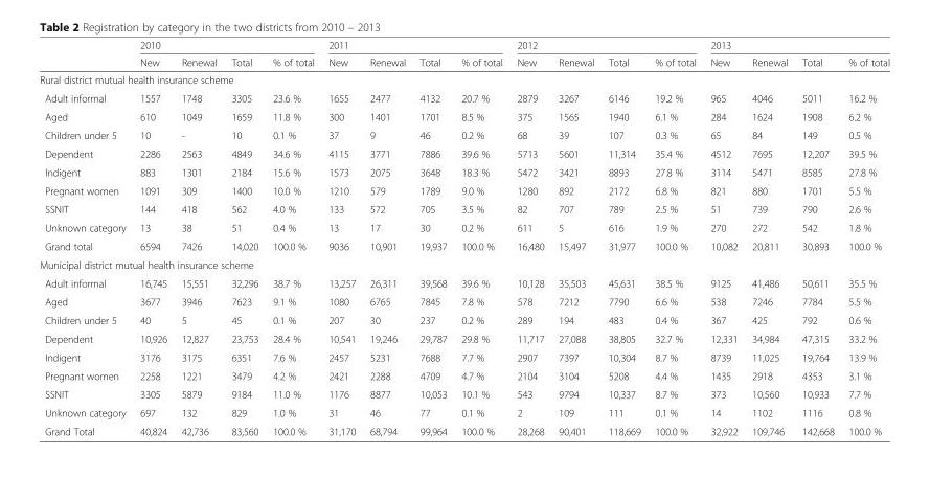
<table><thead><tr><td rowspan="2"></td><td colspan="4">2010</td><td colspan="4">2011</td><td colspan="4">2012</td><td colspan="4">2013</td></tr><tr><td>New</td><td>Renewal</td><td>Total</td><td>% of total</td><td>New</td><td>Renewal</td><td>Total</td><td>% of total</td><td>New</td><td>Renewal</td><td>Total</td><td>% of total</td><td>New</td><td>Renewal</td><td>Total</td><td>% of total</td></tr></thead><tbody><tr><td colspan="17">Rural district mutual health insurance scheme</td></tr><tr><td>Adult informal</td><td>1557</td><td>1748</td><td>3305</td><td>23.6 %</td><td>1655</td><td>2477</td><td>4132</td><td>20.7 %</td><td>2879</td><td>3267</td><td>6146</td><td>19.2 %</td><td>965</td><td>4046</td><td>5011</td><td>16.2 %</td></tr><tr><td>Aged</td><td>610</td><td>1049</td><td>1659</td><td>11.8 %</td><td>300</td><td>1401</td><td>1701</td><td>8.5 %</td><td>375</td><td>1565</td><td>1940</td><td>6.1 %</td><td>284</td><td>1624</td><td>1908</td><td>6.2 %</td></tr><tr><td>Children under 5</td><td>10</td><td>-</td><td>10</td><td>0.1 %</td><td>37</td><td>9</td><td>46</td><td>0.2 %</td><td>68</td><td>39</td><td>107</td><td>0.3 %</td><td>65</td><td>84</td><td>149</td><td>0.5 %</td></tr><tr><td>Dependent</td><td>2286</td><td>2563</td><td>4849</td><td>34.6 %</td><td>4115</td><td>3771</td><td>7886</td><td>39.6 %</td><td>5713</td><td>5601</td><td>11,314</td><td>35.4 %</td><td>4512</td><td>7695</td><td>12,207</td><td>39.5 %</td></tr><tr><td>Indigent</td><td>883</td><td>1301</td><td>2184</td><td>15.6 %</td><td>1573</td><td>2075</td><td>3648</td><td>18.3 %</td><td>5472</td><td>3421</td><td>8893</td><td>27.8 %</td><td>3114</td><td>5471</td><td>8585</td><td>27.8 %</td></tr><tr><td>Pregnant women</td><td>1091</td><td>309</td><td>1400</td><td>10.0 %</td><td>1210</td><td>579</td><td>1789</td><td>9.0 %</td><td>1280</td><td>892</td><td>2172</td><td>6.8 %</td><td>821</td><td>880</td><td>1701</td><td>5.5 %</td></tr><tr><td>SSNIT</td><td>144</td><td>418</td><td>562</td><td>4.0 %</td><td>133</td><td>572</td><td>705</td><td>3.5 %</td><td>82</td><td>707</td><td>789</td><td>2.5 %</td><td>51</td><td>739</td><td>790</td><td>2.6 %</td></tr><tr><td>Unknown category</td><td>13</td><td>38</td><td>51</td><td>0.4 %</td><td>13</td><td>17</td><td>30</td><td>0.2 %</td><td>611</td><td>5</td><td>616</td><td>1.9 %</td><td>270</td><td>272</td><td>542</td><td>1.8 %</td></tr><tr><td>Grand total</td><td>6594</td><td>7426</td><td>14,020</td><td>100.0 %</td><td>9036</td><td>10,901</td><td>19,937</td><td>100.0 %</td><td>16,480</td><td>15,497</td><td>31,977</td><td>100.0 %</td><td>10,082</td><td>20,811</td><td>30,893</td><td>100.0 %</td></tr><tr><td colspan="17">Municipal district mutual health insurance scheme</td></tr><tr><td>Adult informal</td><td>16,745</td><td>15,551</td><td>32,296</td><td>38.7 %</td><td>13,257</td><td>26,311</td><td>39,568</td><td>39.6 %</td><td>10,128</td><td>35,503</td><td>45,631</td><td>38.5 %</td><td>9125</td><td>41,486</td><td>50,611</td><td>35.5 %</td></tr><tr><td>Aged</td><td>3677</td><td>3946</td><td>7623</td><td>9.1 %</td><td>1080</td><td>6765</td><td>7845</td><td>7.8 %</td><td>578</td><td>7212</td><td>7790</td><td>6.6 %</td><td>538</td><td>7246</td><td>7784</td><td>5.5 %</td></tr><tr><td>Children under 5</td><td>40</td><td>5</td><td>45</td><td>0.1 %</td><td>207</td><td>30</td><td>237</td><td>0.2 %</td><td>289</td><td>194</td><td>483</td><td>0.4 %</td><td>367</td><td>425</td><td>792</td><td>0.6 %</td></tr><tr><td>Dependent</td><td>10,926</td><td>12,827</td><td>23,753</td><td>28.4 %</td><td>10,541</td><td>19,246</td><td>29,787</td><td>29.8 %</td><td>11,717</td><td>27,088</td><td>38,805</td><td>32.7 %</td><td>12,331</td><td>34,984</td><td>47,315</td><td>33.2 %</td></tr><tr><td>Indigent</td><td>3176</td><td>3175</td><td>6351</td><td>7.6 %</td><td>2457</td><td>5231</td><td>7688</td><td>7.7 %</td><td>2907</td><td>7397</td><td>10,304</td><td>8.7 %</td><td>8739</td><td>11,025</td><td>19,764</td><td>13.9 %</td></tr><tr><td>Pregnant women</td><td>2258</td><td>1221</td><td>3479</td><td>4.2 %</td><td>2421</td><td>2288</td><td>4709</td><td>4.7 %</td><td>2104</td><td>3104</td><td>5208</td><td>4.4 %</td><td>1435</td><td>2918</td><td>4353</td><td>3.1 %</td></tr><tr><td>SSNIT</td><td>3305</td><td>5879</td><td>9184</td><td>11.0 %</td><td>1176</td><td>8877</td><td>10,053</td><td>10.1 %</td><td>543</td><td>9794</td><td>10,337</td><td>8.7 %</td><td>373</td><td>10,560</td><td>10,933</td><td>7.7 %</td></tr><tr><td>Unknown category</td><td>697</td><td>132</td><td>829</td><td>1.0 %</td><td>31</td><td>46</td><td>77</td><td>0.1 %</td><td>2</td><td>109</td><td>111</td><td>0.1 %</td><td>14</td><td>1102</td><td>1116</td><td>0.8 %</td></tr><tr><td>Grand Total</td><td>40,824</td><td>42,736</td><td>83,560</td><td>100.0 %</td><td>31,170</td><td>68,794</td><td>99,964</td><td>100.0 %</td><td>28,268</td><td>90,401</td><td>118,669</td><td>100.0 %</td><td>32,922</td><td>109,746</td><td>142,668</td><td>100.0 %</td></tr></tbody></table>